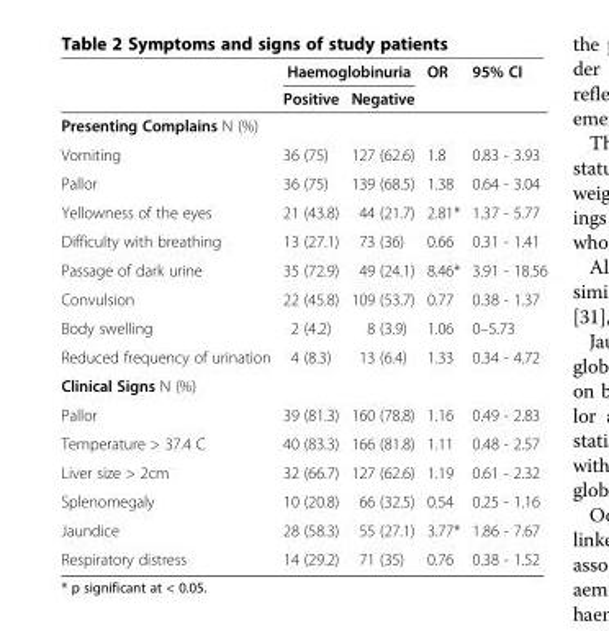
<table><thead><tr><td rowspan="2"></td><td colspan="2">Haemoglobinuria</td><td rowspan="2">OR</td><td rowspan="2">95% CI</td></tr><tr><td>Positive</td><td>Negative</td></tr></thead><tbody><tr><td colspan="5">Presenting Complains N (%)</td></tr><tr><td>Vomiting</td><td>36 (75)</td><td>127 (62.6)</td><td>1.8</td><td>0.83 - 3.93</td></tr><tr><td>Pallor</td><td>36 (75)</td><td>139 (68.5)</td><td>1.38</td><td>0.64 - 3.04</td></tr><tr><td>Yellowness of the eyes</td><td>21 (43.8)</td><td>44 (21.7)</td><td>2.81*</td><td>1.37 - 5.77</td></tr><tr><td>Difficulty with breathing</td><td>13 (27.1)</td><td>73 (36)</td><td>0.66</td><td>0.31 - 1.41</td></tr><tr><td>Passage of dark urine</td><td>35 (72.9)</td><td>49 (24.1)</td><td>8.46*</td><td>3.91 - 18.56</td></tr><tr><td>Convulsion</td><td>22 (45.8)</td><td>109 (53.7)</td><td>0.77</td><td>0.38 - 1.37</td></tr><tr><td>Body swelling</td><td>2 (4.2)</td><td>8 (3.9)</td><td>1.06</td><td>0–5.73</td></tr><tr><td>Reduced frequency of urination</td><td>4 (8.3)</td><td>13 (6.4)</td><td>1.33</td><td>0.34 - 4.72</td></tr><tr><td colspan="5">Clinical Signs N (%)</td></tr><tr><td>Pallor</td><td>39 (81.3)</td><td>160 (78.8)</td><td>1.16</td><td>0.49 - 2.83</td></tr><tr><td>Temperature &gt; 37.4 C</td><td>40 (83.3)</td><td>166 (81.8)</td><td>1.11</td><td>0.48 - 2.57</td></tr><tr><td>Liver size &gt; 2cm</td><td>32 (66.7)</td><td>127 (62.6)</td><td>1.19</td><td>0.61 - 2.32</td></tr><tr><td>Splenomegaly</td><td>10 (20.8)</td><td>66 (32.5)</td><td>0.54</td><td>0.25 - 1.16</td></tr><tr><td>Jaundice</td><td>28 (58.3)</td><td>55 (27.1)</td><td>3.77*</td><td>1.86 - 7.67</td></tr><tr><td>Respiratory distress</td><td>14 (29.2)</td><td>71 (35)</td><td>0.76</td><td>0.38 - 1.52</td></tr></tbody></table>